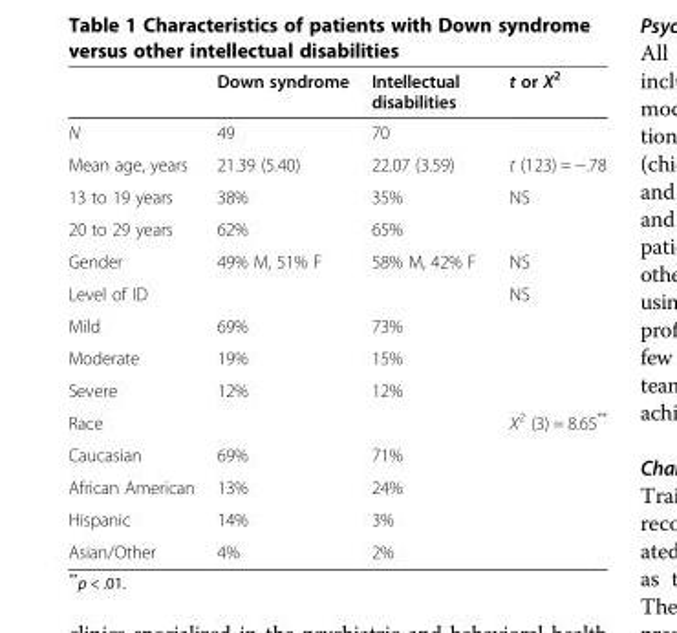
<table><thead><tr><td></td><td>Down syndrome</td><td>Intellectual disabilities</td><td>t or X<sup>2</sup></td></tr></thead><tbody><tr><td>N</td><td>49</td><td>70</td><td></td></tr><tr><td>Mean age, years</td><td>21.39 (5.40)</td><td>22.07 (3.59)</td><td>t (123) = −.78</td></tr><tr><td>13 to 19 years</td><td>38%</td><td>35%</td><td>NS</td></tr><tr><td>20 to 29 years</td><td>62%</td><td>65%</td><td></td></tr><tr><td>Gender</td><td>49% M, 51% F</td><td>58% M, 42% F</td><td>NS</td></tr><tr><td>Level of ID</td><td></td><td></td><td>NS</td></tr><tr><td>Mild</td><td>69%</td><td>73%</td><td></td></tr><tr><td>Moderate</td><td>19%</td><td>15%</td><td></td></tr><tr><td>Severe</td><td>12%</td><td>12%</td><td></td></tr><tr><td>Race</td><td></td><td></td><td>X<sup>2</sup> (3) = 8.65**</td></tr><tr><td>Caucasian</td><td>69%</td><td>71%</td><td></td></tr><tr><td>African American</td><td>13%</td><td>24%</td><td></td></tr><tr><td>Hispanic</td><td>14%</td><td>3%</td><td></td></tr><tr><td>Asian/Other</td><td>4%</td><td>2%</td><td></td></tr></tbody></table>